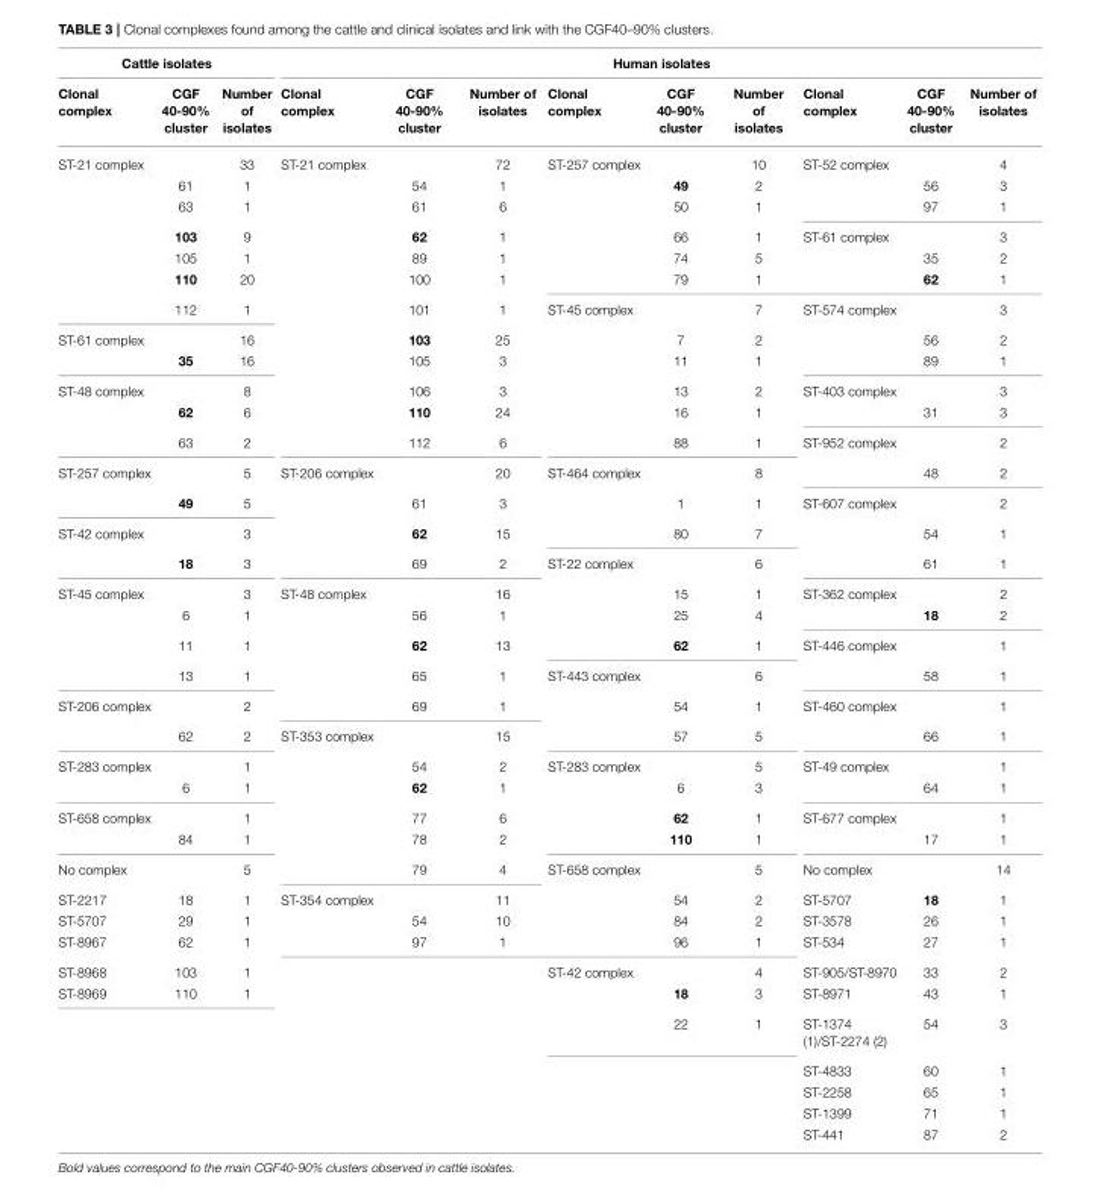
<table><thead><tr><td colspan="3">Cattle isolates</td><td colspan="9">Human isolates</td></tr><tr><td>Clonal complex</td><td>CGF 40-90% cluster</td><td>Number of isolates</td><td>Clonal complex</td><td>CGF 40-90% cluster</td><td>Number of isolates</td><td>Clonal complex</td><td>CGF 40-90% cluster</td><td>Number of isolates</td><td>Clonal complex</td><td>CGF 40-90% cluster</td><td>Number of isolates</td></tr></thead><tbody><tr><td rowspan="7">ST-21 complex</td><td></td><td>33</td><td>ST-21 complex</td><td></td><td>72</td><td>ST-257 complex</td><td></td><td>10</td><td>ST-52 complex</td><td></td><td>4</td></tr><tr><td>61</td><td>1</td><td></td><td>54</td><td>1</td><td></td><td>49</td><td>2</td><td></td><td>56</td><td>3</td></tr><tr><td>63</td><td>1</td><td></td><td>61</td><td>6</td><td></td><td>50</td><td>1</td><td></td><td>97</td><td>1</td></tr><tr><td>103</td><td>9</td><td></td><td>62</td><td>1</td><td></td><td>66</td><td>1</td><td>ST-61 complex</td><td></td><td>3</td></tr><tr><td>105</td><td>1</td><td></td><td>89</td><td>1</td><td></td><td>74</td><td>5</td><td></td><td>35</td><td>2</td></tr><tr><td>110</td><td>20</td><td></td><td>100</td><td>1</td><td></td><td>79</td><td>1</td><td></td><td>62</td><td>1</td></tr><tr><td>112</td><td>1</td><td></td><td>101</td><td>1</td><td>ST-45 complex</td><td></td><td>7</td><td>ST-574 complex</td><td></td><td>3</td></tr><tr><td rowspan="2">ST-61 complex</td><td></td><td>16</td><td></td><td>103</td><td>25</td><td></td><td>7</td><td>2</td><td></td><td>56</td><td>2</td></tr><tr><td>35</td><td>16</td><td></td><td>105</td><td>3</td><td></td><td>11</td><td>1</td><td></td><td>89</td><td>1</td></tr><tr><td rowspan="3">ST-48 complex</td><td></td><td>8</td><td></td><td>106</td><td>3</td><td></td><td>13</td><td>2</td><td>ST-403 complex</td><td></td><td>3</td></tr><tr><td>62</td><td>6</td><td></td><td>110</td><td>24</td><td></td><td>16</td><td>1</td><td></td><td>31</td><td>3</td></tr><tr><td>63</td><td>2</td><td></td><td>112</td><td>6</td><td></td><td>88</td><td>1</td><td>ST-952 complex</td><td></td><td>2</td></tr><tr><td rowspan="2">ST-257 complex</td><td></td><td>5</td><td>ST-206 complex</td><td></td><td>20</td><td>ST-464 complex</td><td></td><td>8</td><td></td><td>48</td><td>2</td></tr><tr><td>49</td><td>5</td><td></td><td>61</td><td>3</td><td></td><td>1</td><td>1</td><td>ST-607 complex</td><td></td><td>2</td></tr><tr><td rowspan="2">ST-42 complex</td><td></td><td>3</td><td></td><td>62</td><td>15</td><td></td><td>80</td><td>7</td><td></td><td>54</td><td>1</td></tr><tr><td>18</td><td>3</td><td></td><td>69</td><td>2</td><td>ST-22 complex</td><td></td><td>6</td><td></td><td>61</td><td>1</td></tr><tr><td rowspan="4">ST-45 complex</td><td></td><td>3</td><td>ST-48 complex</td><td></td><td>16</td><td></td><td>15</td><td>1</td><td>ST-362 complex</td><td></td><td>2</td></tr><tr><td>6</td><td>1</td><td></td><td>56</td><td>1</td><td></td><td>25</td><td>4</td><td></td><td>18</td><td>2</td></tr><tr><td>11</td><td>1</td><td></td><td>62</td><td>13</td><td></td><td>62</td><td>1</td><td>ST-446 complex</td><td></td><td>1</td></tr><tr><td>13</td><td>1</td><td></td><td>65</td><td>1</td><td>ST-443 complex</td><td></td><td>6</td><td></td><td>58</td><td>1</td></tr><tr><td rowspan="2">ST-206 complex</td><td></td><td>2</td><td></td><td>69</td><td>1</td><td></td><td>54</td><td>1</td><td>ST-460 complex</td><td></td><td>1</td></tr><tr><td>62</td><td>2</td><td>ST-353 complex</td><td></td><td>15</td><td></td><td>57</td><td>5</td><td></td><td>66</td><td>1</td></tr><tr><td rowspan="2">ST-283 complex</td><td></td><td>1</td><td></td><td>54</td><td>2</td><td>ST-283 complex</td><td></td><td>5</td><td>ST-49 complex</td><td></td><td>1</td></tr><tr><td>6</td><td>1</td><td></td><td>62</td><td>1</td><td></td><td>6</td><td>3</td><td></td><td>64</td><td>1</td></tr><tr><td rowspan="2">ST-658 complex</td><td></td><td>1</td><td></td><td>77</td><td>6</td><td></td><td>62</td><td>1</td><td>ST-677 complex</td><td></td><td>1</td></tr><tr><td>84</td><td>1</td><td></td><td>78</td><td>2</td><td></td><td>110</td><td>1</td><td></td><td>17</td><td>1</td></tr><tr><td>No complex</td><td></td><td>5</td><td></td><td>79</td><td>4</td><td>ST-658 complex</td><td></td><td>5</td><td>No complex</td><td></td><td>14</td></tr><tr><td>ST-2217</td><td>18</td><td>1</td><td>ST-354 complex</td><td></td><td>11</td><td></td><td>54</td><td>2</td><td>ST-5707</td><td>18</td><td>1</td></tr><tr><td>ST-5707</td><td>29</td><td>1</td><td></td><td>54</td><td>10</td><td></td><td>84</td><td>2</td><td>ST-3578</td><td>26</td><td>1</td></tr><tr><td>ST-8967</td><td>62</td><td>1</td><td></td><td>97</td><td>1</td><td></td><td>96</td><td>1</td><td>ST-534</td><td>27</td><td>1</td></tr><tr><td>ST-8968</td><td>103</td><td>1</td><td></td><td></td><td></td><td>ST-42 complex</td><td></td><td>4</td><td>ST-905/ST-8970</td><td>33</td><td>2</td></tr><tr><td rowspan="6">ST-8969</td><td>110</td><td>1</td><td></td><td></td><td></td><td></td><td>18</td><td>3</td><td>ST-8971</td><td>43</td><td>1</td></tr><tr><td></td><td></td><td></td><td></td><td></td><td></td><td>22</td><td>1</td><td>ST-1374 (1)/ST-2274 (2)</td><td>54</td><td>3</td></tr><tr><td></td><td></td><td></td><td></td><td></td><td></td><td></td><td></td><td>ST-4833</td><td>60</td><td>1</td></tr><tr><td></td><td></td><td></td><td></td><td></td><td></td><td></td><td></td><td>ST-2258</td><td>65</td><td>1</td></tr><tr><td></td><td></td><td></td><td></td><td></td><td></td><td></td><td></td><td>ST-1399</td><td>71</td><td>1</td></tr><tr><td></td><td></td><td></td><td></td><td></td><td></td><td></td><td></td><td>ST-441</td><td>87</td><td>2</td></tr></tbody></table>